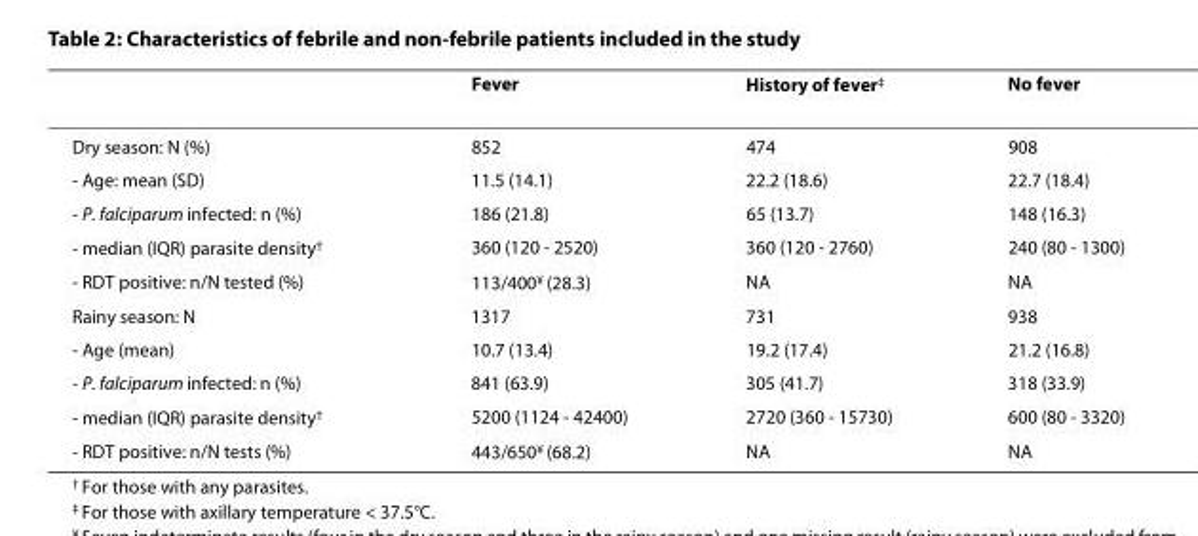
<table><thead><tr><td></td><td>Fever</td><td>History of fever<sup>‡</sup></td><td>No fever</td></tr></thead><tbody><tr><td>Dry season: N (%)</td><td>852</td><td>474</td><td>908</td></tr><tr><td>- Age: mean (SD)</td><td>11.5 (14.1)</td><td>22.2 (18.6)</td><td>22.7 (18.4)</td></tr><tr><td>- P. falciparum infected: n (%)</td><td>186 (21.8)</td><td>65 (13.7)</td><td>148 (16.3)</td></tr><tr><td>- median (IQR) parasite density<sup>†</sup></td><td>360 (120 - 2520)</td><td>360 (120 - 2760)</td><td>240 (80 - 1300)</td></tr><tr><td>- RDT positive: n/N tested (%)</td><td>113/400<sup>¥</sup> (28.3)</td><td>NA</td><td>NA</td></tr><tr><td>Rainy season: N</td><td>1317</td><td>731</td><td>938</td></tr><tr><td>- Age (mean)</td><td>10.7 (13.4)</td><td>19.2 (17.4)</td><td>21.2 (16.8)</td></tr><tr><td>- P. falciparum infected: n (%)</td><td>841 (63.9)</td><td>305 (41.7)</td><td>318 (33.9)</td></tr><tr><td>- median (IQR) parasite density<sup>†</sup></td><td>5200 (1124 - 42400)</td><td>2720 (360 - 15730)</td><td>600 (80 - 3320)</td></tr><tr><td>- RDT positive: n/N tests (%)</td><td>443/650<sup>¥</sup> (68.2)</td><td>NA</td><td>NA</td></tr></tbody></table>